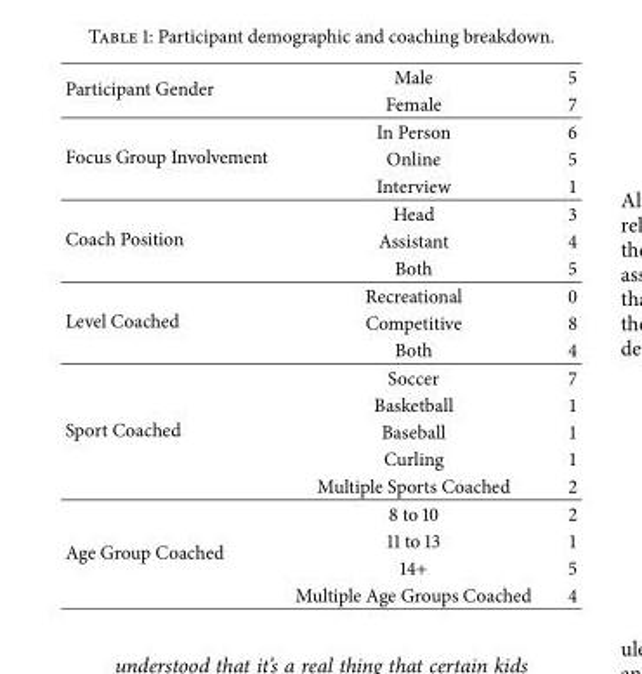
<table><tbody><tr><td rowspan="2">Participant Gender</td><td>Male</td><td>5</td></tr><tr><td>Female</td><td>7</td></tr><tr><td rowspan="3">Focus Group Involvement</td><td>In Person</td><td>6</td></tr><tr><td>Online</td><td>5</td></tr><tr><td>Interview</td><td>1</td></tr><tr><td rowspan="3">Coach Position</td><td>Head</td><td>3</td></tr><tr><td>Assistant</td><td>4</td></tr><tr><td>Both</td><td>5</td></tr><tr><td rowspan="3">Level Coached</td><td>Recreational</td><td>0</td></tr><tr><td>Competitive</td><td>8</td></tr><tr><td>Both</td><td>4</td></tr><tr><td rowspan="5">Sport Coached</td><td>Soccer</td><td>7</td></tr><tr><td>Basketball</td><td>1</td></tr><tr><td>Baseball</td><td>1</td></tr><tr><td>Curling</td><td>1</td></tr><tr><td>Multiple Sports Coached</td><td>2</td></tr><tr><td rowspan="4">Age Group Coached</td><td>8 to 10</td><td>2</td></tr><tr><td>11 to 13</td><td>1</td></tr><tr><td>14+</td><td>5</td></tr><tr><td>Multiple Age Groups Coached</td><td>4</td></tr></tbody></table>